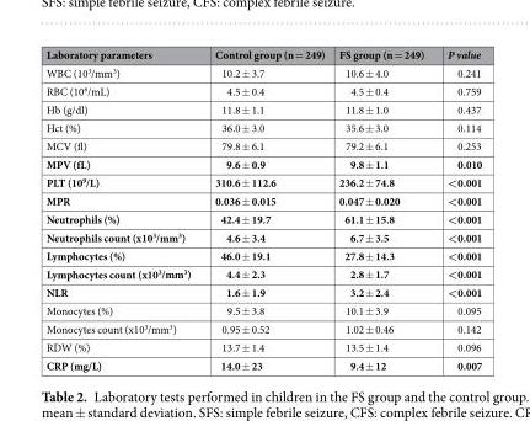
<table><thead><tr><td>Laboratory parameters</td><td>Control group (n = 249)</td><td>FS group (n = 249)</td><td>P value</td></tr></thead><tbody><tr><td>WBC (10<sup>3</sup>/mm<sup>3</sup>)</td><td>10.2 ± 3.7</td><td>10.6 ± 4.0</td><td>0.241</td></tr><tr><td>RBC (10<sup>6</sup>/mL)</td><td>4.5 ± 0.4</td><td>4.5 ± 0.4</td><td>0.759</td></tr><tr><td>Hb (g/dl)</td><td>11.8 ± 1.1</td><td>11.8 ± 1.0</td><td>0.437</td></tr><tr><td>Hct (%)</td><td>36.0 ± 3.0</td><td>35.6 ± 3.0</td><td>0.114</td></tr><tr><td>MCV (fl)</td><td>79.8 ± 6.1</td><td>79.2 ± 6.1</td><td>0.253</td></tr><tr><td>MPV (fL)</td><td>9.6 ± 0.9</td><td>9.8 ± 1.1</td><td>0.010</td></tr><tr><td>PLT (10<sup>9</sup>/L)</td><td>310.6 ± 112.6</td><td>236.2 ± 74.8</td><td>&lt;0.001</td></tr><tr><td>MPR</td><td>0.036 ± 0.015</td><td>0.047 ± 0.020</td><td>&lt;0.001</td></tr><tr><td>Neutrophils (%)</td><td>42.4 ± 19.7</td><td>61.1 ± 15.8</td><td>&lt;0.001</td></tr><tr><td>Neutrophils count (x10<sup>3</sup>/mm<sup>3</sup>)</td><td>4.6 ± 3.4</td><td>6.7 ± 3.5</td><td>&lt;0.001</td></tr><tr><td>Lymphocytes (%)</td><td>46.0 ± 19.1</td><td>27.8 ± 14.3</td><td>&lt;0.001</td></tr><tr><td>Lymphocytes count (x10<sup>3</sup>/mm<sup>3</sup>)</td><td>4.4 ± 2.3</td><td>2.8 ± 1.7</td><td>&lt;0.001</td></tr><tr><td>NLR</td><td>1.6 ± 1.9</td><td>3.2 ± 2.4</td><td>&lt;0.001</td></tr><tr><td>Monocytes (%)</td><td>9.5 ± 3.8</td><td>10.1 ± 3.9</td><td>0.095</td></tr><tr><td>Monocytes count (x10<sup>3</sup>/mm<sup>3</sup>)</td><td>0.95 ± 0.52</td><td>1.02 ± 0.46</td><td>0.142</td></tr><tr><td>RDW (%)</td><td>13.7 ± 1.4</td><td>13.5 ± 1.4</td><td>0.096</td></tr><tr><td>CRP (mg/L)</td><td>14.0 ± 23</td><td>9.4 ± 12</td><td>0.007</td></tr></tbody></table>